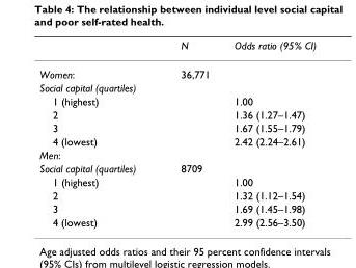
<table><thead><tr><td></td><td>N</td><td>Odds ratio (95% CI)</td></tr></thead><tbody><tr><td>Women:</td><td>36,771</td><td></td></tr><tr><td colspan="3">Social capital (quartiles)</td></tr><tr><td>1 (highest)</td><td></td><td>1.00</td></tr><tr><td>2</td><td></td><td>1.36 (1.27–1.47)</td></tr><tr><td>3</td><td></td><td>1.67 (1.55–1.79)</td></tr><tr><td>4 (lowest)</td><td></td><td>2.42 (2.24–2.61)</td></tr><tr><td colspan="3">Men:</td></tr><tr><td>Social capital (quartiles)</td><td>8709</td><td></td></tr><tr><td>1 (highest)</td><td></td><td>1.00</td></tr><tr><td>2</td><td></td><td>1.32 (1.12–1.54)</td></tr><tr><td>3</td><td></td><td>1.69 (1.45–1.98)</td></tr><tr><td>4 (lowest)</td><td></td><td>2.99 (2.56–3.50)</td></tr></tbody></table>